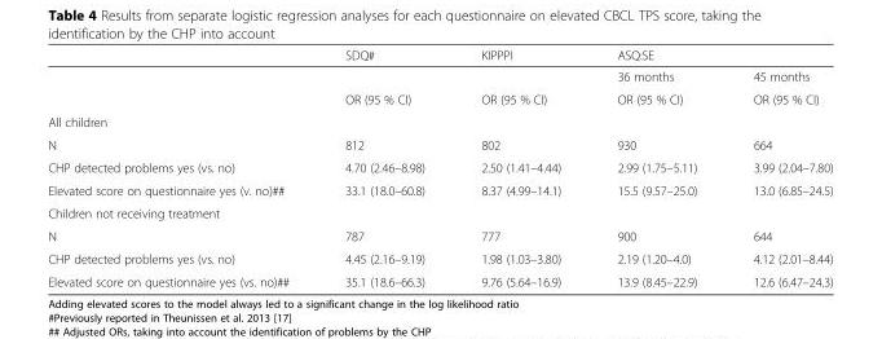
<table><thead><tr><td rowspan="2"></td><td rowspan="2">SDQ#</td><td rowspan="2">KIPPPI</td><td colspan="2">ASQ:SE</td></tr><tr><td>36 months</td><td>45 months</td></tr></thead><tbody><tr><td></td><td>OR (95 % CI)</td><td>OR (95 % CI)</td><td>OR (95 % CI)</td><td>OR (95 % CI)</td></tr><tr><td colspan="5">All children</td></tr><tr><td>N</td><td>812</td><td>802</td><td>930</td><td>664</td></tr><tr><td>CHP detected problems yes (vs. no)</td><td>4.70 (2.46–8.98)</td><td>2.50 (1.41–4.44)</td><td>2.99 (1.75–5.11)</td><td>3.99 (2.04–7.80)</td></tr><tr><td>Elevated score on questionnaire yes (v. no)##</td><td>33.1 (18.0–60.8)</td><td>8.37 (4.99–14.1)</td><td>15.5 (9.57–25.0)</td><td>13.0 (6.85–24.5)</td></tr><tr><td colspan="5">Children not receiving treatment</td></tr><tr><td>N</td><td>787</td><td>777</td><td>900</td><td>644</td></tr><tr><td>CHP detected problems yes (vs. no)</td><td>4.45 (2.16–9.19)</td><td>1.98 (1.03–3.80)</td><td>2.19 (1.20–4.0)</td><td>4.12 (2.01–8.44)</td></tr><tr><td>Elevated score on questionnaire yes (vs. no)##</td><td>35.1 (18.6–66.3)</td><td>9.76 (5.64–16.9)</td><td>13.9 (8.45–22.9)</td><td>12.6 (6.47–24.3)</td></tr></tbody></table>